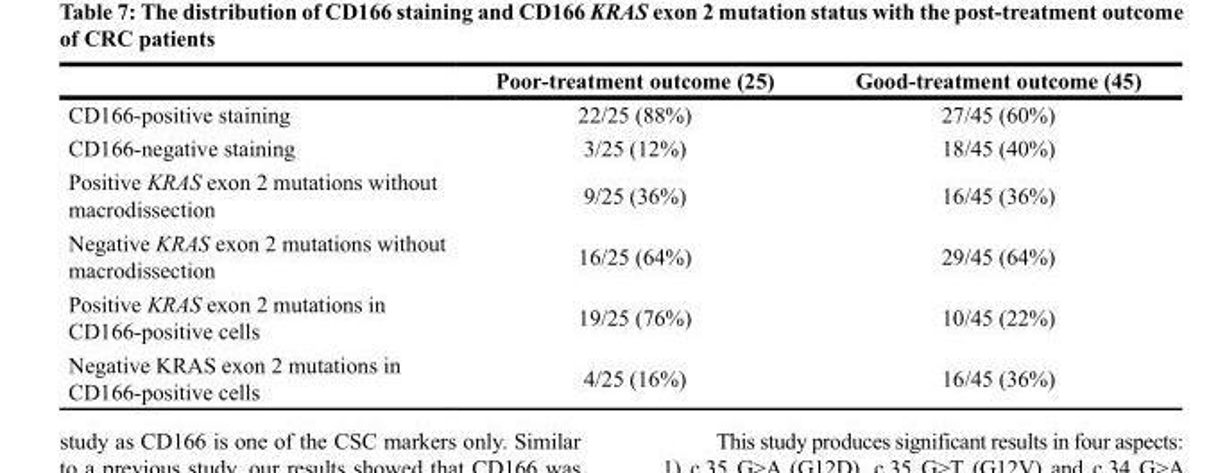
<table><thead><tr><td></td><td>Poor-treatment outcome (25)</td><td>Good-treatment outcome (45)</td></tr></thead><tbody><tr><td>CD166-positive staining</td><td>22/25 (88%)</td><td>27/45 (60%)</td></tr><tr><td>CD166-negative staining</td><td>3/25 (12%)</td><td>18/45 (40%)</td></tr><tr><td>Positive KRAS exon 2 mutations without macrodissection</td><td>9/25 (36%)</td><td>16/45 (36%)</td></tr><tr><td>Negative KRAS exon 2 mutations without macrodissection</td><td>16/25 (64%)</td><td>29/45 (64%)</td></tr><tr><td>Positive KRAS exon 2 mutations in CD166-positive cells</td><td>19/25 (76%)</td><td>10/45 (22%)</td></tr><tr><td>Negative KRAS exon 2 mutations in CD166-positive cells</td><td>4/25 (16%)</td><td>16/45 (36%)</td></tr></tbody></table>